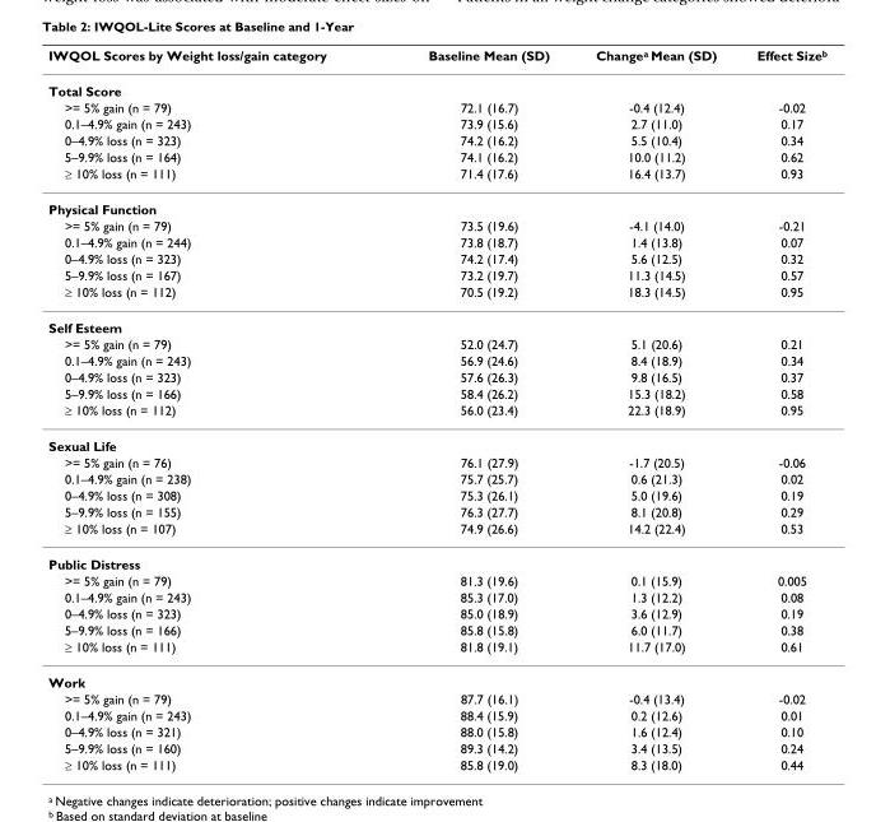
<table><thead><tr><td>IWQOL Scores by Weight loss/gain category</td><td>Baseline Mean (SD)</td><td>Change<sup>a</sup> Mean (SD)</td><td>Effect Size<sup>b</sup></td></tr></thead><tbody><tr><td colspan="4">Total Score</td></tr><tr><td>&gt;= 5% gain (n = 79)</td><td>72.1 (16.7)</td><td>-0.4 (12.4)</td><td>-0.02</td></tr><tr><td>0.1–4.9% gain (n = 243)</td><td>73.9 (15.6)</td><td>2.7 (11.0)</td><td>0.17</td></tr><tr><td>0–4.9% loss (n = 323)</td><td>74.2 (16.2)</td><td>5.5 (10.4)</td><td>0.34</td></tr><tr><td>5–9.9% loss (n = 164)</td><td>74.1 (16.2)</td><td>10.0 (11.2)</td><td>0.62</td></tr><tr><td>≥ 10% loss (n = 111)</td><td>71.4 (17.6)</td><td>16.4 (13.7)</td><td>0.93</td></tr><tr><td colspan="4">Physical Function</td></tr><tr><td>&gt;= 5% gain (n = 79)</td><td>73.5 (19.6)</td><td>-4.1 (14.0)</td><td>-0.21</td></tr><tr><td>0.1–4.9% gain (n = 244)</td><td>73.8 (18.7)</td><td>1.4 (13.8)</td><td>0.07</td></tr><tr><td>0–4.9% loss (n = 323)</td><td>74.2 (17.4)</td><td>5.6 (12.5)</td><td>0.32</td></tr><tr><td>5–9.9% loss (n = 167)</td><td>73.2 (19.7)</td><td>11.3 (14.5)</td><td>0.57</td></tr><tr><td>≥ 10% loss (n = 112)</td><td>70.5 (19.2)</td><td>18.3 (14.5)</td><td>0.95</td></tr><tr><td colspan="4">Self Esteem</td></tr><tr><td>&gt;= 5% gain (n = 79)</td><td>52.0 (24.7)</td><td>5.1 (20.6)</td><td>0.21</td></tr><tr><td>0.1–4.9% gain (n = 243)</td><td>56.9 (24.6)</td><td>8.4 (18.9)</td><td>0.34</td></tr><tr><td>0–4.9% loss (n = 323)</td><td>57.6 (26.3)</td><td>9.8 (16.5)</td><td>0.37</td></tr><tr><td>5–9.9% loss (n = 166)</td><td>58.4 (26.2)</td><td>15.3 (18.2)</td><td>0.58</td></tr><tr><td>≥ 10% loss (n = 112)</td><td>56.0 (23.4)</td><td>22.3 (18.9)</td><td>0.95</td></tr><tr><td colspan="4">Sexual Life</td></tr><tr><td>&gt;= 5% gain (n = 76)</td><td>76.1 (27.9)</td><td>-1.7 (20.5)</td><td>-0.06</td></tr><tr><td>0.1–4.9% gain (n = 238)</td><td>75.7 (25.7)</td><td>0.6 (21.3)</td><td>0.02</td></tr><tr><td>0–4.9% loss (n = 308)</td><td>75.3 (26.1)</td><td>5.0 (19.6)</td><td>0.19</td></tr><tr><td>5–9.9% loss (n = 155)</td><td>76.3 (27.7)</td><td>8.1 (20.8)</td><td>0.29</td></tr><tr><td>≥ 10% loss (n = 107)</td><td>74.9 (26.6)</td><td>14.2 (22.4)</td><td>0.53</td></tr><tr><td colspan="4">Public Distress</td></tr><tr><td>&gt;= 5% gain (n = 79)</td><td>81.3 (19.6)</td><td>0.1 (15.9)</td><td>0.005</td></tr><tr><td>0.1–4.9% gain (n = 243)</td><td>85.3 (17.0)</td><td>1.3 (12.2)</td><td>0.08</td></tr><tr><td>0–4.9% loss (n = 323)</td><td>85.0 (18.9)</td><td>3.6 (12.9)</td><td>0.19</td></tr><tr><td>5–9.9% loss (n = 166)</td><td>85.8 (15.8)</td><td>6.0 (11.7)</td><td>0.38</td></tr><tr><td>≥ 10% loss (n = 111)</td><td>81.8 (19.1)</td><td>11.7 (17.0)</td><td>0.61</td></tr><tr><td colspan="4">Work</td></tr><tr><td>&gt;= 5% gain (n = 79)</td><td>87.7 (16.1)</td><td>-0.4 (13.4)</td><td>-0.02</td></tr><tr><td>0.1–4.9% gain (n = 243)</td><td>88.4 (15.9)</td><td>0.2 (12.6)</td><td>0.01</td></tr><tr><td>0–4.9% loss (n = 321)</td><td>88.0 (15.8)</td><td>1.6 (12.4)</td><td>0.10</td></tr><tr><td>5–9.9% loss (n = 160)</td><td>89.3 (14.2)</td><td>3.4 (13.5)</td><td>0.24</td></tr><tr><td>≥ 10% loss (n = 111)</td><td>85.8 (19.0)</td><td>8.3 (18.0)</td><td>0.44</td></tr></tbody></table>